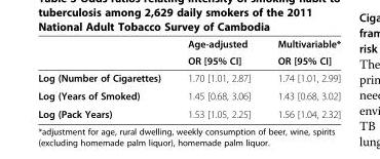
<table><thead><tr><td rowspan="2"></td><td rowspan="2">Age-adjusted OR [95% CI]</td><td rowspan="2">Multivariable* OR [95% CI]</td></tr><tr></tr></thead><tbody><tr><td>Log (Number of Cigarettes)</td><td>1.70 [1.01, 2.87]</td><td>1.74 [1.01, 2.99]</td></tr><tr><td>Log (Years of Smoked)</td><td>1.45 [0.68, 3.06]</td><td>1.43 [0.68, 3.02]</td></tr><tr><td>Log (Pack Years)</td><td>1.53 [1.05, 2.25]</td><td>1.56 [1.04, 2.32]</td></tr></tbody></table>